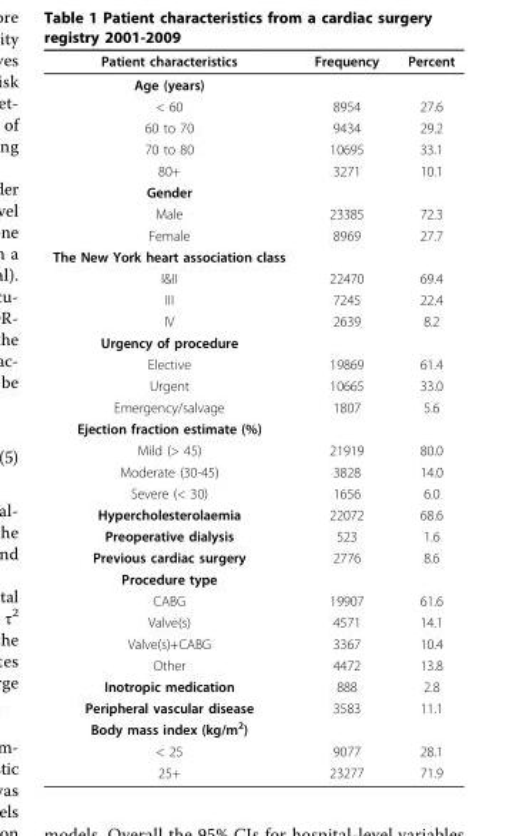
<table><thead><tr><td>Patient characteristics</td><td>Frequency</td><td>Percent</td></tr></thead><tbody><tr><td colspan="3">Age (years)</td></tr><tr><td>&lt; 60</td><td>8954</td><td>27.6</td></tr><tr><td>60 to 70</td><td>9434</td><td>29.2</td></tr><tr><td>70 to 80</td><td>10695</td><td>33.1</td></tr><tr><td>80+</td><td>3271</td><td>10.1</td></tr><tr><td colspan="3">Gender</td></tr><tr><td>Male</td><td>23385</td><td>72.3</td></tr><tr><td>Female</td><td>8969</td><td>27.7</td></tr><tr><td colspan="3">The New York heart association class</td></tr><tr><td>I&amp;II</td><td>22470</td><td>69.4</td></tr><tr><td>III</td><td>7245</td><td>22.4</td></tr><tr><td>IV</td><td>2639</td><td>8.2</td></tr><tr><td colspan="3">Urgency of procedure</td></tr><tr><td>Elective</td><td>19869</td><td>61.4</td></tr><tr><td>Urgent</td><td>10665</td><td>33.0</td></tr><tr><td>Emergency/salvage</td><td>1807</td><td>5.6</td></tr><tr><td colspan="3">Ejection fraction estimate (%)</td></tr><tr><td>Mild (&gt; 45)</td><td>21919</td><td>80.0</td></tr><tr><td>Moderate (30-45)</td><td>3828</td><td>14.0</td></tr><tr><td>Severe (&lt; 30)</td><td>1656</td><td>6.0</td></tr><tr><td>Hypercholesterolaemia</td><td>22072</td><td>68.6</td></tr><tr><td>Preoperative dialysis</td><td>523</td><td>1.6</td></tr><tr><td>Previous cardiac surgery</td><td>2776</td><td>8.6</td></tr><tr><td colspan="3">Procedure type</td></tr><tr><td>CABG</td><td>19907</td><td>61.6</td></tr><tr><td>Valve(s)</td><td>4571</td><td>14.1</td></tr><tr><td>Valve(s)+CABG</td><td>3367</td><td>10.4</td></tr><tr><td>Other</td><td>4472</td><td>13.8</td></tr><tr><td>Inotropic medication</td><td>888</td><td>2.8</td></tr><tr><td>Peripheral vascular disease</td><td>3583</td><td>11.1</td></tr><tr><td colspan="3">Body mass index (kg/m<sup>2</sup>)</td></tr><tr><td>&lt; 25</td><td>9077</td><td>28.1</td></tr><tr><td>25+</td><td>23277</td><td>71.9</td></tr></tbody></table>